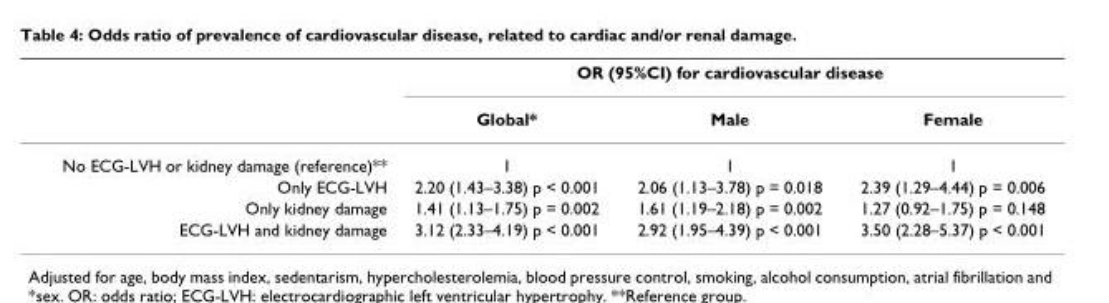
<table><thead><tr><td rowspan="2"></td><td colspan="3">OR (95%CI) for cardiovascular disease</td></tr><tr><td>Global*</td><td>Male</td><td>Female</td></tr></thead><tbody><tr><td>No ECG-LVH or kidney damage (reference)**</td><td>1</td><td>1</td><td>1</td></tr><tr><td>Only ECG-LVH</td><td>2.20 (1.43–3.38) p &lt; 0.001</td><td>2.06 (1.13–3.78) p = 0.018</td><td>2.39 (1.29–4.44) p = 0.006</td></tr><tr><td>Only kidney damage</td><td>1.41 (1.13–1.75) p = 0.002</td><td>1.61 (1.19–2.18) p = 0.002</td><td>1.27 (0.92–1.75) p = 0.148</td></tr><tr><td>ECG-LVH and kidney damage</td><td>3.12 (2.33–4.19) p &lt; 0.001</td><td>2.92 (1.95–4.39) p &lt; 0.001</td><td>3.50 (2.28–5.37) p &lt; 0.001</td></tr></tbody></table>